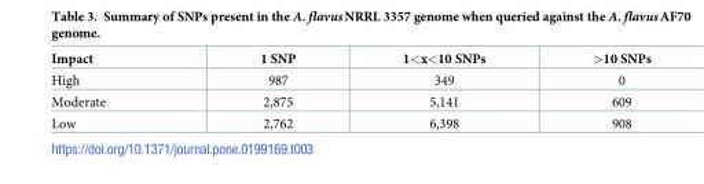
<table><thead><tr><td>Impact</td><td>1 SNP</td><td>1&lt;x&lt;10 SNPs</td><td>&gt;10 SNPs</td></tr></thead><tbody><tr><td>High</td><td>987</td><td>349</td><td>0</td></tr><tr><td>Moderate</td><td>2,875</td><td>5,141</td><td>609</td></tr><tr><td>Low</td><td>2,762</td><td>6,398</td><td>908</td></tr></tbody></table>